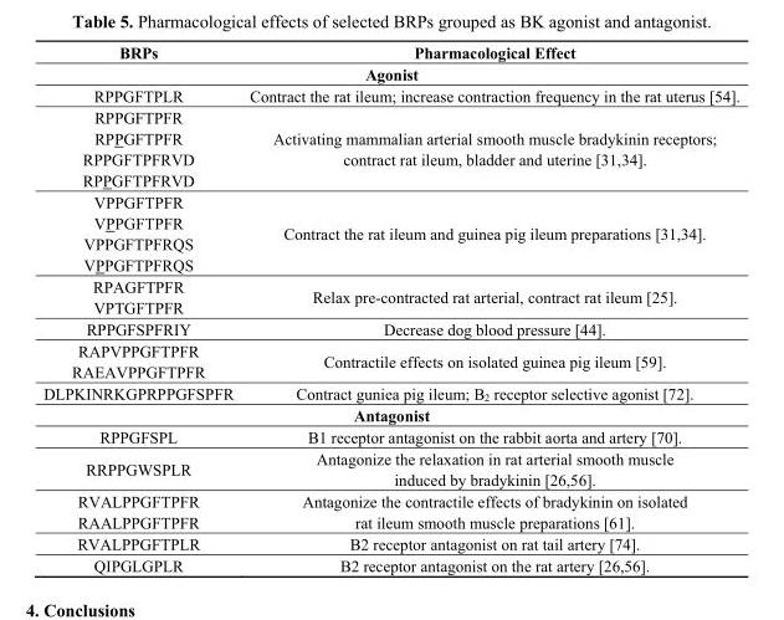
<table><thead><tr><td>BRPs</td><td>Pharmacological Effect</td></tr></thead><tbody><tr><td colspan="2">Agonist</td></tr><tr><td>RPPGFTPLR</td><td>Contract the rat ileum; increase contraction frequency in the rat uterus [54].</td></tr><tr><td>RPPGFTPFR RPPGFTPFR RPPGFTPFRVD RPPGFTPFRVD</td><td>Activating mammalian arterial smooth muscle bradykinin receptors; contract rat ileum, bladder and uterine [31,34].</td></tr><tr><td>VPPGFTPFR VPPGFTPFR VPPGFTPFRQS VPPGFTPFRQS</td><td>Contract the rat ileum and guinea pig ileum preparations [31,34].</td></tr><tr><td>RPAGFTPFR VPTGFTPFR</td><td>Relax pre-contracted rat arterial, contract rat ileum [25].</td></tr><tr><td>RPPGFSPFRIY</td><td>Decrease dog blood pressure [44].</td></tr><tr><td>RAPVPPGFTPFR RAEAVPPGFTPFR</td><td>Contractile effects on isolated guinea pig ileum [59].</td></tr><tr><td>DLPKINRKGPRPPGFSPFR</td><td>Contract guniea pig ileum; B<sub>2</sub> receptor selective agonist [72].</td></tr><tr><td colspan="2">Antagonist</td></tr><tr><td>RPPGFSPL</td><td>B1 receptor antagonist on the rabbit aorta and artery [70].</td></tr><tr><td>RRPPGWSPLR</td><td>Antagonize the relaxation in rat arterial smooth muscle induced by bradykinin [26,56].</td></tr><tr><td>RVALPPGFTPFR RAALPPGFTPFR</td><td>Antagonize the contractile effects of bradykinin on isolated rat ileum smooth muscle preparations [61].</td></tr><tr><td>RVALPPGFTPLR</td><td>B2 receptor antagonist on rat tail artery [74].</td></tr><tr><td>QIPGLGPLR</td><td>B2 receptor antagonist on the rat artery [26,56].</td></tr></tbody></table>